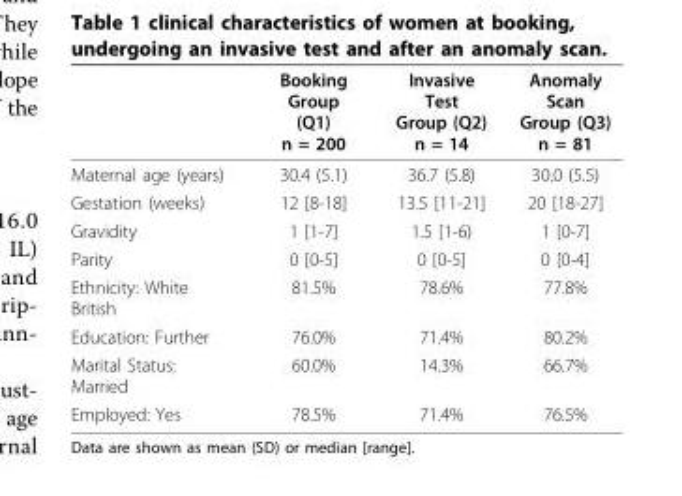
<table><thead><tr><td></td><td>Booking Group (Q1) n = 200</td><td>Invasive Test Group (Q2) n = 14</td><td>Anomaly Scan Group (Q3) n = 81</td></tr></thead><tbody><tr><td>Maternal age (years)</td><td>30.4 (5.1)</td><td>36.7 (5.8)</td><td>30.0 (5.5)</td></tr><tr><td>Gestation (weeks)</td><td>12 [8-18]</td><td>13.5 [11-21]</td><td>20 [18-27]</td></tr><tr><td>Gravidity</td><td>1 [1-7]</td><td>1.5 [1-6)</td><td>1 [0-7]</td></tr><tr><td>Parity</td><td>0 [0-5]</td><td>0 [0-5]</td><td>0 [0-4]</td></tr><tr><td>Ethnicity: White British</td><td>81.5%</td><td>78.6%</td><td>77.8%</td></tr><tr><td>Education: Further</td><td>76.0%</td><td>71.4%</td><td>80.2%</td></tr><tr><td>Marital Status: Married</td><td>60.0%</td><td>14.3%</td><td>66.7%</td></tr><tr><td>Employed: Yes</td><td>78.5%</td><td>71.4%</td><td>76.5%</td></tr></tbody></table>